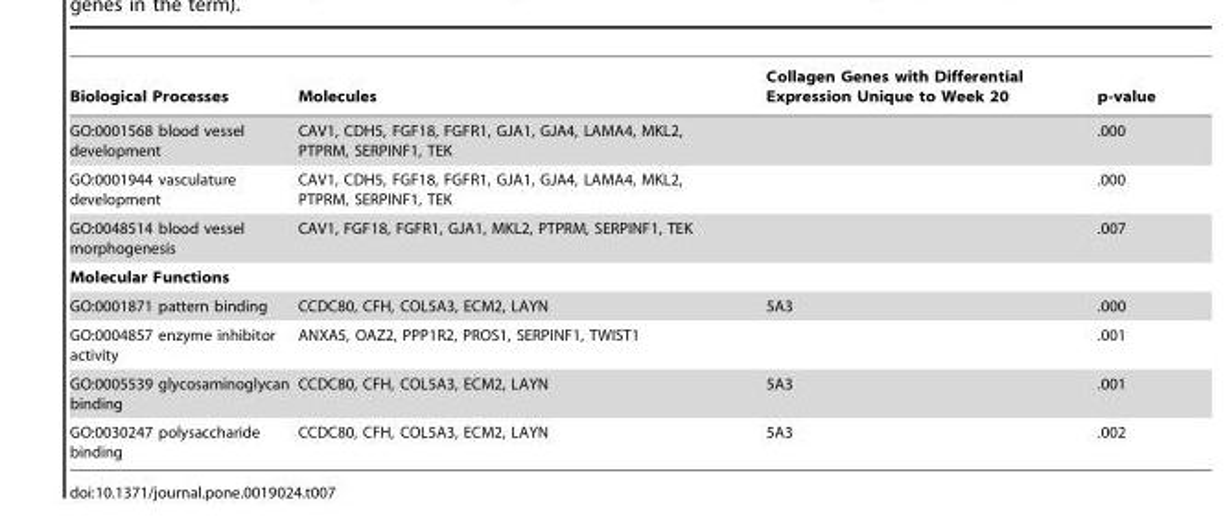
<table><thead><tr><td>Biological Processes</td><td>Molecules</td><td>Collagen Genes with Differential Expression Unique to Week 20</td><td>p-value</td></tr></thead><tbody><tr><td>GO:0001568 blood vessel development</td><td>CAV1, CDH5, FGF18, FGFR1, GJA1, GJA4, LAMA4, MKL2, PTPRM, SERPINF1, TEK</td><td></td><td>.000</td></tr><tr><td>GO:0001944 vasculature development</td><td>CAV1, CDH5, FGF18, FGFR1, GJA1, GJA4, LAMA4, MKL2, PTPRM, SERPINF1, TEK</td><td></td><td>.000</td></tr><tr><td>GO:0048514 blood vessel morphogenesis</td><td>CAV1, FGF18, FGFR1, GJA1, MKL2, PTPRM, SERPINF1, TEK</td><td></td><td>.007</td></tr><tr><td colspan="4">Molecular Functions</td></tr><tr><td>GO:0001871 pattern binding</td><td>CCDC80, CFH, COL5A3, ECM2, LAYN</td><td>5A3</td><td>.000</td></tr><tr><td>GO:0004857 enzyme inhibitor activity</td><td>ANXA5, OAZ2, PPP1R2, PROS1, SERPINF1, TWIST1</td><td></td><td>.001</td></tr><tr><td>GO:0005539 glycosaminoglycan binding</td><td>CCDC80, CFH, COL5A3, ECM2, LAYN</td><td>5A3</td><td>.001</td></tr><tr><td>GO:0030247 polysaccharide binding</td><td>CCDC80, CFH, COL5A3, ECM2, LAYN</td><td>5A3</td><td>.002</td></tr></tbody></table>